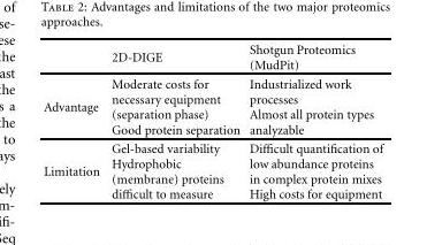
<table><thead><tr><td></td><td>2D-DIGE</td><td>Shotgun Proteomics (MudPit)</td></tr></thead><tbody><tr><td>Advantage</td><td>Moderate costs for necessary equipment (separation phase) Good protein separation</td><td>Industrialized work processes Almost all protein types analyzable</td></tr><tr><td>Limitation</td><td>Gel-based variability Hydrophobic (membrane) proteins difficult to measure</td><td>Difficult quantification of low abundance proteins in complex protein mixes High costs for equipment</td></tr></tbody></table>